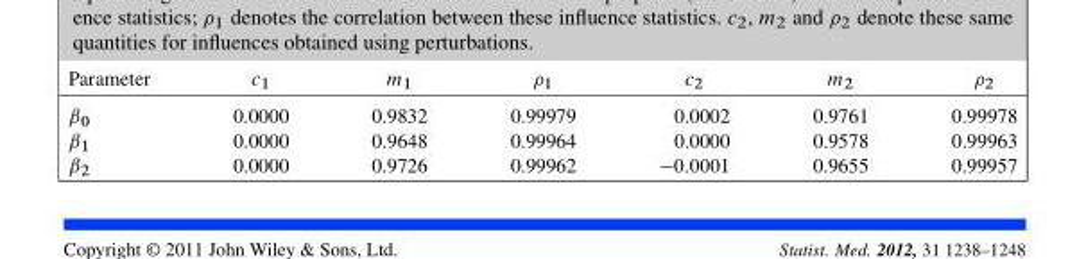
<table><thead><tr><td>Parameter</td><td>c<sub>1</sub></td><td>m<sub>1</sub></td><td>ρ<sub>1</sub></td><td>c<sub>2</sub></td><td>m<sub>2</sub></td><td>ρ<sub>2</sub></td></tr></thead><tbody><tr><td>ˇ0</td><td>0.0000</td><td>0.9832</td><td>0.99979</td><td>0.0002</td><td>0.9761</td><td>0.99978</td></tr><tr><td>ˇ1</td><td>0.0000</td><td>0.9648</td><td>0.99964</td><td>0.0000</td><td>0.9578</td><td>0.99963</td></tr><tr><td>ˇ2</td><td>0.0000</td><td>0.9726</td><td>0.99962</td><td>�0:0001</td><td>0.9655</td><td>0.99957</td></tr></tbody></table>